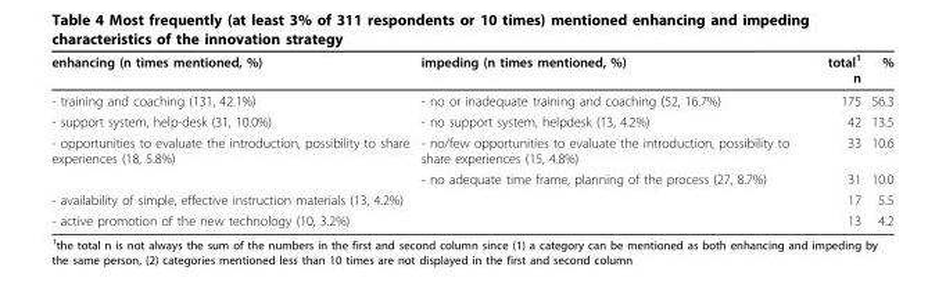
<table><thead><tr><td>enhancing (n times mentioned, %)</td><td>impeding (n times mentioned, %)</td><td>total<sup>1</sup> n</td><td>%</td></tr></thead><tbody><tr><td>- training and coaching (131, 42.1%)</td><td>- no or inadequate training and coaching (52, 16.7%)</td><td>175</td><td>56.3</td></tr><tr><td>- support system, help-desk (31, 10.0%)</td><td>- no support system, helpdesk (13, 4.2%)</td><td>42</td><td>13.5</td></tr><tr><td rowspan="2">- opportunities to evaluate the introduction, possibility to share experiences (18, 5.8%)</td><td>- no/few opportunities to evaluate the introduction, possibility to share experiences (15, 4.8%)</td><td>33</td><td>10.6</td></tr><tr><td>- no adequate time frame, planning of the process (27, 8.7%)</td><td>31</td><td>10.0</td></tr><tr><td>- availability of simple, effective instruction materials (13, 4.2%)</td><td></td><td>17</td><td>5.5</td></tr><tr><td>- active promotion of the new technology (10, 3.2%)</td><td></td><td>13</td><td>4.2</td></tr></tbody></table>